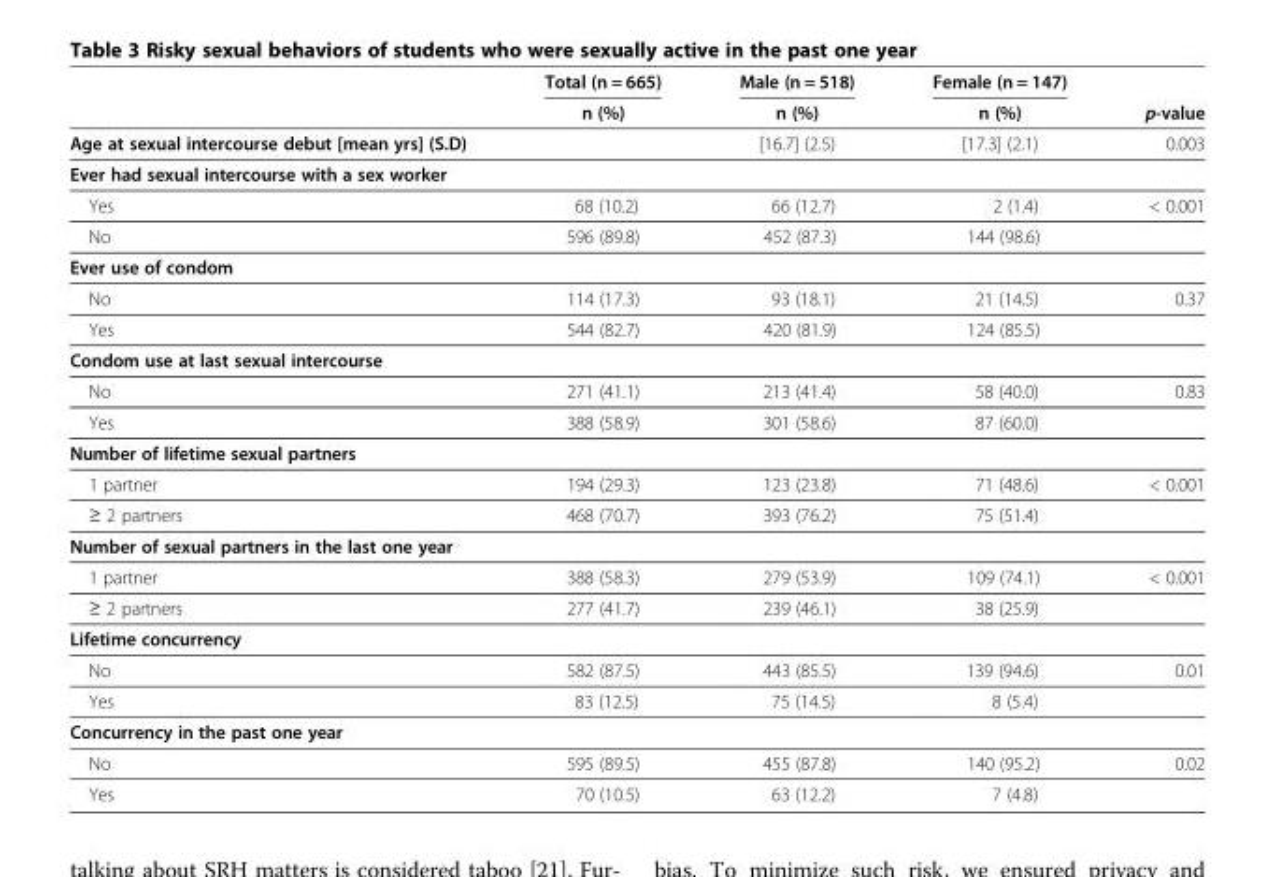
<table><thead><tr><td rowspan="2"></td><td rowspan="2">Total (n = 665) n (%)</td><td rowspan="2">Male (n = 518) n (%)</td><td rowspan="2">Female (n = 147) n (%)</td><td rowspan="2">p-value</td></tr><tr></tr></thead><tbody><tr><td>Age at sexual intercourse debut [mean yrs] (S.D)</td><td></td><td>[16.7] (2.5)</td><td>[17.3] (2.1)</td><td>0.003</td></tr><tr><td colspan="5">Ever had sexual intercourse with a sex worker</td></tr><tr><td>Yes</td><td>68 (10.2)</td><td>66 (12.7)</td><td>2 (1.4)</td><td>&lt; 0.001</td></tr><tr><td>No</td><td>596 (89.8)</td><td>452 (87.3)</td><td>144 (98.6)</td><td></td></tr><tr><td colspan="5">Ever use of condom</td></tr><tr><td>No</td><td>114 (17.3)</td><td>93 (18.1)</td><td>21 (14.5)</td><td>0.37</td></tr><tr><td>Yes</td><td>544 (82.7)</td><td>420 (81.9)</td><td>124 (85.5)</td><td></td></tr><tr><td colspan="5">Condom use at last sexual intercourse</td></tr><tr><td>No</td><td>271 (41.1)</td><td>213 (41.4)</td><td>58 (40.0)</td><td>0.83</td></tr><tr><td>Yes</td><td>388 (58.9)</td><td>301 (58.6)</td><td>87 (60.0)</td><td></td></tr><tr><td colspan="5">Number of lifetime sexual partners</td></tr><tr><td>1 partner</td><td>194 (29.3)</td><td>123 (23.8)</td><td>71 (48.6)</td><td>&lt; 0.001</td></tr><tr><td>≥ 2 partners</td><td>468 (70.7)</td><td>393 (76.2)</td><td>75 (51.4)</td><td></td></tr><tr><td colspan="5">Number of sexual partners in the last one year</td></tr><tr><td>1 partner</td><td>388 (58.3)</td><td>279 (53.9)</td><td>109 (74.1)</td><td>&lt; 0.001</td></tr><tr><td>≥ 2 partners</td><td>277 (41.7)</td><td>239 (46.1)</td><td>38 (25.9)</td><td></td></tr><tr><td colspan="5">Lifetime concurrency</td></tr><tr><td>No</td><td>582 (87.5)</td><td>443 (85.5)</td><td>139 (94.6)</td><td>0.01</td></tr><tr><td>Yes</td><td>83 (12.5)</td><td>75 (14.5)</td><td>8 (5.4)</td><td></td></tr><tr><td colspan="5">Concurrency in the past one year</td></tr><tr><td>No</td><td>595 (89.5)</td><td>455 (87.8)</td><td>140 (95.2)</td><td>0.02</td></tr><tr><td>Yes</td><td>70 (10.5)</td><td>63 (12.2)</td><td>7 (4.8)</td><td></td></tr></tbody></table>